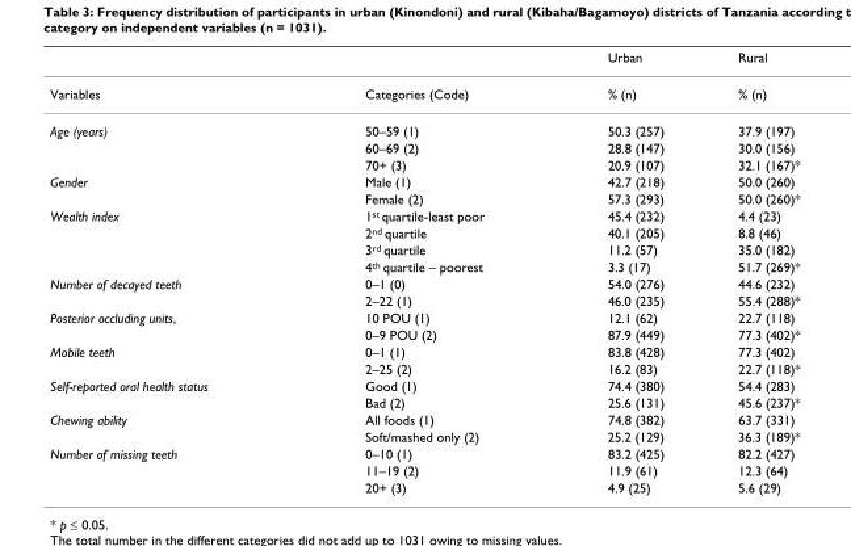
<table><thead><tr><td></td><td></td><td>Urban</td><td>Rural</td></tr></thead><tbody><tr><td>Variables</td><td>Categories (Code)</td><td>% (n)</td><td>% (n)</td></tr><tr><td rowspan="3">Age (years)</td><td>50–59 (1)</td><td>50.3 (257)</td><td>37.9 (197)</td></tr><tr><td>60–69 (2)</td><td>28.8 (147)</td><td>30.0 (156)</td></tr><tr><td>70+ (3)</td><td>20.9 (107)</td><td>32.1 (167)*</td></tr><tr><td rowspan="2">Gender</td><td>Male (1)</td><td>42.7 (218)</td><td>50.0 (260)</td></tr><tr><td>Female (2)</td><td>57.3 (293)</td><td>50.0 (260)*</td></tr><tr><td rowspan="4">Wealth index</td><td>1<sup>st</sup> quartile-least poor</td><td>45.4 (232)</td><td>4.4 (23)</td></tr><tr><td>2<sup>nd</sup> quartile</td><td>40.1 (205)</td><td>8.8 (46)</td></tr><tr><td>3<sup>rd</sup> quartile</td><td>11.2 (57)</td><td>35.0 (182)</td></tr><tr><td>4<sup>th</sup> quartile – poorest</td><td>3.3 (17)</td><td>51.7 (269)*</td></tr><tr><td rowspan="2">Number of decayed teeth</td><td>0–1 (0)</td><td>54.0 (276)</td><td>44.6 (232)</td></tr><tr><td>2–22 (1)</td><td>46.0 (235)</td><td>55.4 (288)*</td></tr><tr><td rowspan="2">Posterior occluding units,</td><td>10 POU (1)</td><td>12.1 (62)</td><td>22.7 (118)</td></tr><tr><td>0–9 POU (2)</td><td>87.9 (449)</td><td>77.3 (402)*</td></tr><tr><td rowspan="2">Mobile teeth</td><td>0–1 (1)</td><td>83.8 (428)</td><td>77.3 (402)</td></tr><tr><td>2–25 (2)</td><td>16.2 (83)</td><td>22.7 (118)*</td></tr><tr><td rowspan="2">Self-reported oral health status</td><td>Good (1)</td><td>74.4 (380)</td><td>54.4 (283)</td></tr><tr><td>Bad (2)</td><td>25.6 (131)</td><td>45.6 (237)*</td></tr><tr><td rowspan="2">Chewing ability</td><td>All foods (1)</td><td>74.8 (382)</td><td>63.7 (331)</td></tr><tr><td>Soft/mashed only (2)</td><td>25.2 (129)</td><td>36.3 (189)*</td></tr><tr><td rowspan="3">Number of missing teeth</td><td>0–10 (1)</td><td>83.2 (425)</td><td>82.2 (427)</td></tr><tr><td>11–19 (2)</td><td>11.9 (61)</td><td>12.3 (64)</td></tr><tr><td>20+ (3)</td><td>4.9 (25)</td><td>5.6 (29)</td></tr></tbody></table>